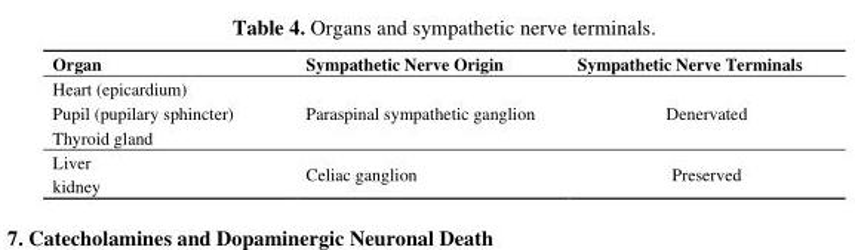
<table><thead><tr><td>Organ</td><td>Sympathetic Nerve Origin</td><td>Sympathetic Nerve Terminals</td></tr></thead><tbody><tr><td>Heart (epicardium)</td><td rowspan="3">Paraspinal sympathetic ganglion</td><td rowspan="3">Denervated</td></tr><tr><td>Pupil (pupilary sphincter)</td></tr><tr><td>Thyroid gland</td></tr><tr><td>Liver</td><td rowspan="2">Celiac ganglion</td><td rowspan="2">Preserved</td></tr><tr><td>kidney</td></tr></tbody></table>